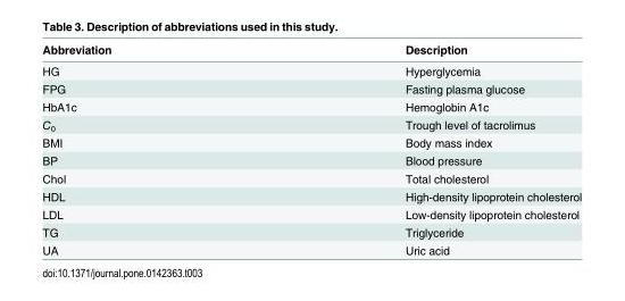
<table><thead><tr><td>Abbreviation</td><td>Description</td></tr></thead><tbody><tr><td>HG</td><td>Hyperglycemia</td></tr><tr><td>FPG</td><td>Fasting plasma glucose</td></tr><tr><td>HbA1c</td><td>Hemoglobin A1c</td></tr><tr><td>C<sub>0</sub></td><td>Trough level of tacrolimus</td></tr><tr><td>BMI</td><td>Body mass index</td></tr><tr><td>BP</td><td>Blood pressure</td></tr><tr><td>Chol</td><td>Total cholesterol</td></tr><tr><td>HDL</td><td>High-density lipoprotein cholesterol</td></tr><tr><td>LDL</td><td>Low-density lipoprotein cholesterol</td></tr><tr><td>TG</td><td>Triglyceride</td></tr><tr><td>UA</td><td>Uric acid</td></tr></tbody></table>